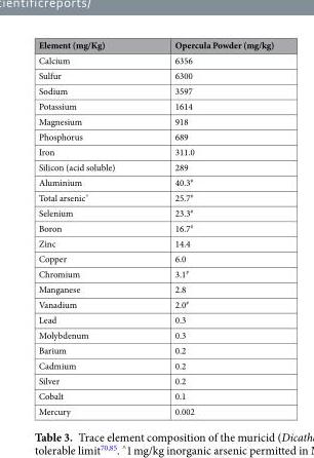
<table><thead><tr><td>Element (mg/Kg)</td><td>Opercula Powder (mg/kg)</td></tr></thead><tbody><tr><td>Calcium</td><td>6356</td></tr><tr><td>Sulfur</td><td>6300</td></tr><tr><td>Sodium</td><td>3597</td></tr><tr><td>Potassium</td><td>1614</td></tr><tr><td>Magnesium</td><td>918</td></tr><tr><td>Phosphorus</td><td>689</td></tr><tr><td>Iron</td><td>311.0</td></tr><tr><td>Silicon (acid soluble)</td><td>289</td></tr><tr><td>Aluminium</td><td>40.3<sup>#</sup></td></tr><tr><td>Total arsenic<sup>^</sup></td><td>25.7<sup>#</sup></td></tr><tr><td>Selenium</td><td>23.3<sup>#</sup></td></tr><tr><td>Boron</td><td>16.7<sup>#</sup></td></tr><tr><td>Zinc</td><td>14.4</td></tr><tr><td>Copper</td><td>6.0</td></tr><tr><td>Chromium</td><td>3.1<sup>#</sup></td></tr><tr><td>Manganese</td><td>2.8</td></tr><tr><td>Vanadium</td><td>2.0<sup>#</sup></td></tr><tr><td>Lead</td><td>0.3</td></tr><tr><td>Molybdenum</td><td>0.3</td></tr><tr><td>Barium</td><td>0.2</td></tr><tr><td>Cadmium</td><td>0.2</td></tr><tr><td>Silver</td><td>0.2</td></tr><tr><td>Cobalt</td><td>0.1</td></tr><tr><td>Mercury</td><td>0.002</td></tr></tbody></table>